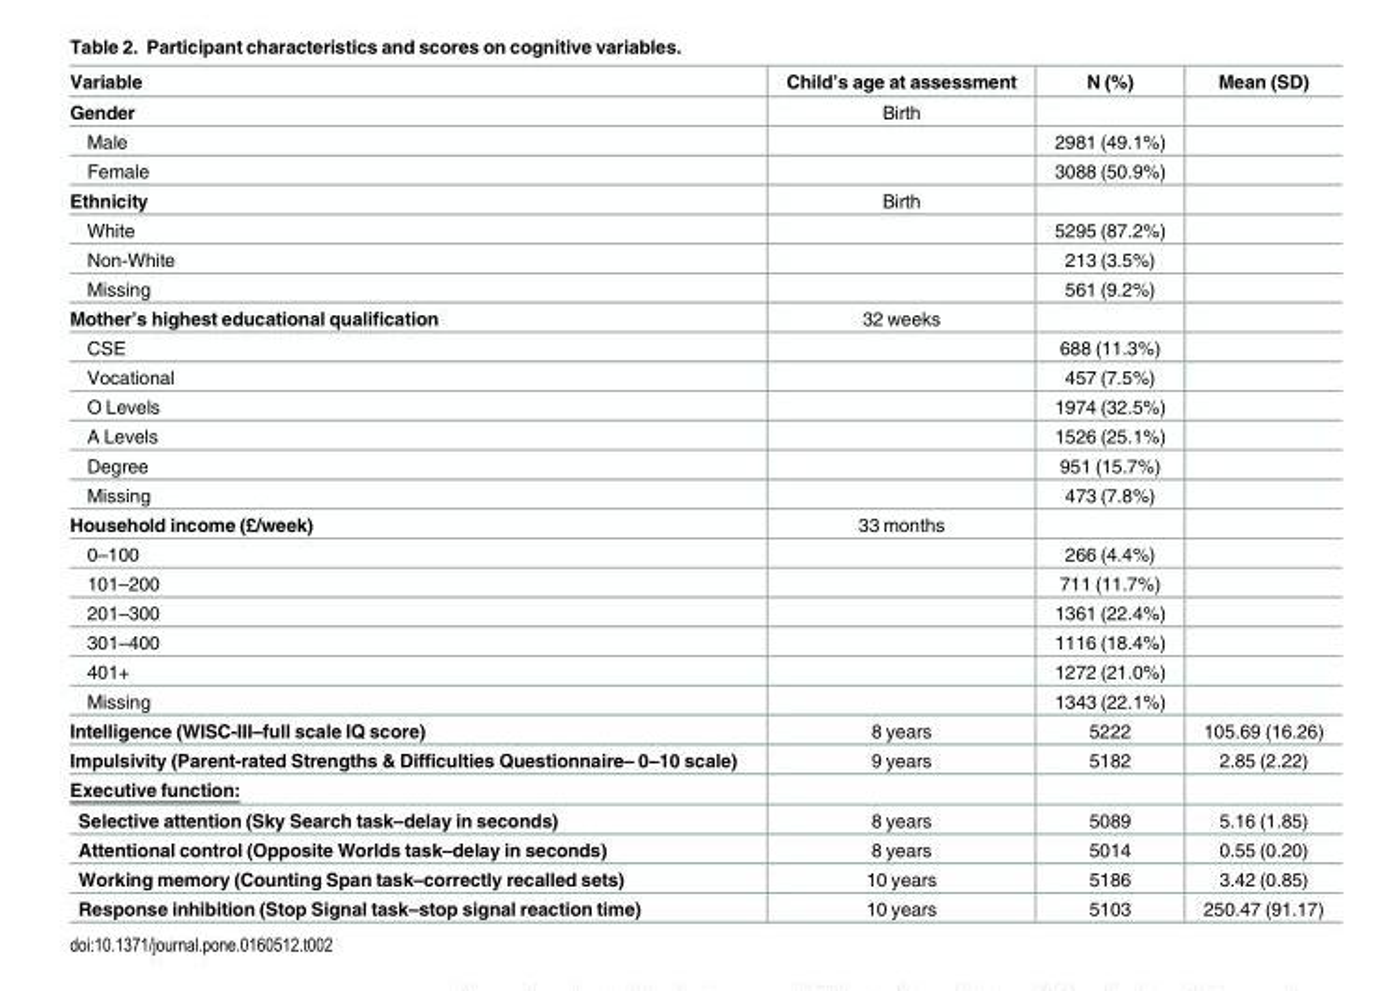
<table><thead><tr><td>Variable</td><td>Child’s age at assessment</td><td>N (%)</td><td>Mean (SD)</td></tr></thead><tbody><tr><td>Gender</td><td>Birth</td><td></td><td></td></tr><tr><td>Male</td><td></td><td>2981 (49.1%)</td><td></td></tr><tr><td>Female</td><td></td><td>3088 (50.9%)</td><td></td></tr><tr><td>Ethnicity</td><td>Birth</td><td></td><td></td></tr><tr><td>White</td><td></td><td>5295 (87.2%)</td><td></td></tr><tr><td>Non-White</td><td></td><td>213 (3.5%)</td><td></td></tr><tr><td>Missing</td><td></td><td>561 (9.2%)</td><td></td></tr><tr><td>Mother’s highest educational qualification</td><td>32 weeks</td><td></td><td></td></tr><tr><td>CSE</td><td></td><td>688 (11.3%)</td><td></td></tr><tr><td>Vocational</td><td></td><td>457 (7.5%)</td><td></td></tr><tr><td>O Levels</td><td></td><td>1974 (32.5%)</td><td></td></tr><tr><td>A Levels</td><td></td><td>1526 (25.1%)</td><td></td></tr><tr><td>Degree</td><td></td><td>951 (15.7%)</td><td></td></tr><tr><td>Missing</td><td></td><td>473 (7.8%)</td><td></td></tr><tr><td>Household income (£/week)</td><td>33 months</td><td></td><td></td></tr><tr><td>0–100</td><td></td><td>266 (4.4%)</td><td></td></tr><tr><td>101–200</td><td></td><td>711 (11.7%)</td><td></td></tr><tr><td>201–300</td><td></td><td>1361 (22.4%)</td><td></td></tr><tr><td>301–400</td><td></td><td>1116 (18.4%)</td><td></td></tr><tr><td>401+</td><td></td><td>1272 (21.0%)</td><td></td></tr><tr><td>Missing</td><td></td><td>1343 (22.1%)</td><td></td></tr><tr><td>Intelligence (WISC-III–full scale IQ score)</td><td>8 years</td><td>5222</td><td>105.69 (16.26)</td></tr><tr><td>Impulsivity (Parent-rated Strengths &amp; Difficulties Questionnaire– 0–10 scale)</td><td>9 years</td><td>5182</td><td>2.85 (2.22)</td></tr><tr><td colspan="4">Executive function:</td></tr><tr><td>Selective attention (Sky Search task–delay in seconds)</td><td>8 years</td><td>5089</td><td>5.16 (1.85)</td></tr><tr><td>Attentional control (Opposite Worlds task–delay in seconds)</td><td>8 years</td><td>5014</td><td>0.55 (0.20)</td></tr><tr><td>Working memory (Counting Span task–correctly recalled sets)</td><td>10 years</td><td>5186</td><td>3.42 (0.85)</td></tr><tr><td>Response inhibition (Stop Signal task–stop signal reaction time)</td><td>10 years</td><td>5103</td><td>250.47 (91.17)</td></tr></tbody></table>